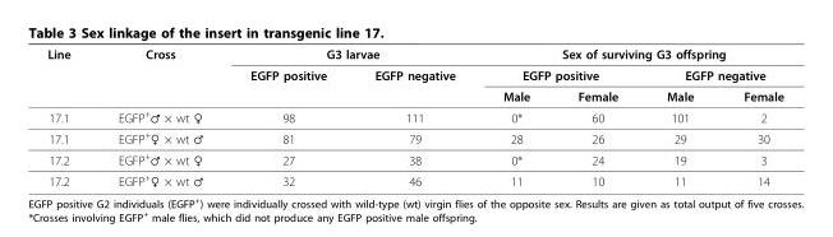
<table><thead><tr><td rowspan="3">Line</td><td rowspan="3">Cross</td><td colspan="2">G3 larvae</td><td colspan="4">Sex of surviving G3 offspring</td></tr><tr><td rowspan="2">EGFP positive</td><td rowspan="2">EGFP negative</td><td colspan="2">EGFP positive</td><td colspan="2">EGFP negative</td></tr><tr><td>Male</td><td>Female</td><td>Male</td><td>Female</td></tr></thead><tbody><tr><td>17.1</td><td>EGFP<sup>+</sup>♂ × wt ♀</td><td>98</td><td>111</td><td>0*</td><td>60</td><td>101</td><td>2</td></tr><tr><td>17.1</td><td>EGFP<sup>+</sup>♀ × wt ♂</td><td>81</td><td>79</td><td>28</td><td>26</td><td>29</td><td>30</td></tr><tr><td>17.2</td><td>EGFP<sup>+</sup>♂ × wt ♀</td><td>27</td><td>38</td><td>0*</td><td>24</td><td>19</td><td>3</td></tr><tr><td>17.2</td><td>EGFP<sup>+</sup>♀ × wt ♂</td><td>32</td><td>46</td><td>11</td><td>10</td><td>11</td><td>14</td></tr></tbody></table>